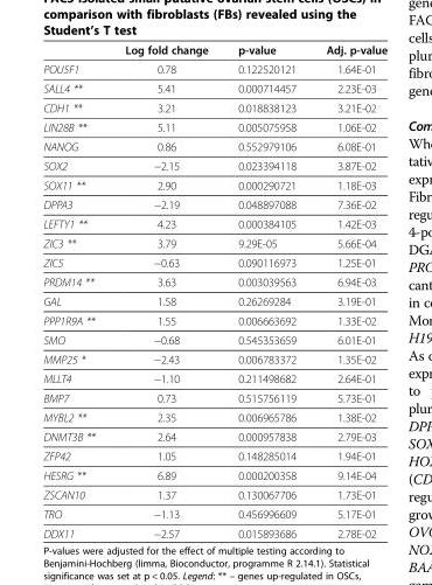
<table><thead><tr><td></td><td>Log fold change</td><td>p-value</td><td>Adj. p-value</td></tr></thead><tbody><tr><td>POU5F1</td><td>0.78</td><td>0.122520121</td><td>1.64E-01</td></tr><tr><td>SALL4 **</td><td>5.41</td><td>0.000714457</td><td>2.23E-03</td></tr><tr><td>CDH1 **</td><td>3.21</td><td>0.018838123</td><td>3.21E-02</td></tr><tr><td>LIN28B **</td><td>5.11</td><td>0.005075958</td><td>1.06E-02</td></tr><tr><td>NANOG</td><td>0.86</td><td>0.552979106</td><td>6.08E-01</td></tr><tr><td>SOX2</td><td>−2.15</td><td>0.023394118</td><td>3.87E-02</td></tr><tr><td>SOX11 **</td><td>2.90</td><td>0.000290721</td><td>1.18E-03</td></tr><tr><td>DPPA3</td><td>−2.19</td><td>0.048897088</td><td>7.36E-02</td></tr><tr><td>LEFTY1 **</td><td>4.23</td><td>0.000384105</td><td>1.42E-03</td></tr><tr><td>ZIC3 **</td><td>3.79</td><td>9.29E-05</td><td>5.66E-04</td></tr><tr><td>ZIC5</td><td>−0.63</td><td>0.090116973</td><td>1.25E-01</td></tr><tr><td>PRDM14 **</td><td>3.63</td><td>0.003039563</td><td>6.94E-03</td></tr><tr><td>GAL</td><td>1.58</td><td>0.26269284</td><td>3.19E-01</td></tr><tr><td>PPP1R9A **</td><td>1.55</td><td>0.006663692</td><td>1.33E-02</td></tr><tr><td>SMO</td><td>−0.68</td><td>0.545353659</td><td>6.01E-01</td></tr><tr><td>MMP25 *</td><td>−2.43</td><td>0.006783372</td><td>1.35E-02</td></tr><tr><td>MLLT4</td><td>−1.10</td><td>0.211498682</td><td>2.64E-01</td></tr><tr><td>BMP7</td><td>0.73</td><td>0.515756119</td><td>5.73E-01</td></tr><tr><td>MYBL2 **</td><td>2.35</td><td>0.006965786</td><td>1.38E-02</td></tr><tr><td>DNMT3B **</td><td>2.64</td><td>0.000957838</td><td>2.79E-03</td></tr><tr><td>ZFP42</td><td>1.05</td><td>0.148285014</td><td>1.94E-01</td></tr><tr><td>HESRG **</td><td>6.89</td><td>0.000200358</td><td>9.14E-04</td></tr><tr><td>ZSCAN10</td><td>1.37</td><td>0.130067706</td><td>1.73E-01</td></tr><tr><td>TRO</td><td>−1.13</td><td>0.456996609</td><td>5.17E-01</td></tr><tr><td>DDX11</td><td>−2.57</td><td>0.015893686</td><td>2.78E-02</td></tr></tbody></table>